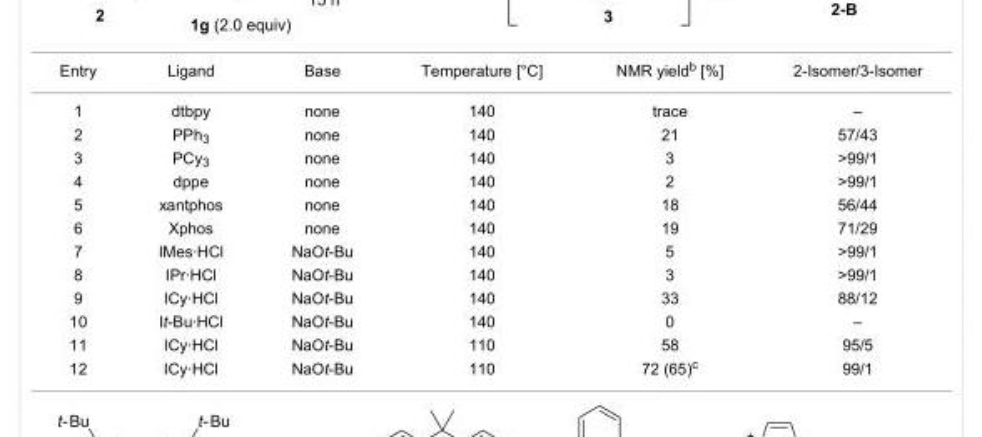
<table><tbody><tr><td>Entry</td><td>Ligand</td><td>Base</td><td>Temperature [°C]</td><td>NMR yield<sup>b</sup> [%]</td><td>2-Isomer/3-Isomer</td></tr><tr><td>1</td><td>dtbpy</td><td>none</td><td>140</td><td>trace</td><td>–</td></tr><tr><td>2</td><td>PPh<sub>3</sub></td><td>none</td><td>140</td><td>21</td><td>57/43</td></tr><tr><td>3</td><td>PCy<sub>3</sub></td><td>none</td><td>140</td><td>3</td><td>&gt;99/1</td></tr><tr><td>4</td><td>dppe</td><td>none</td><td>140</td><td>2</td><td>&gt;99/1</td></tr><tr><td>5</td><td>xantphos</td><td>none</td><td>140</td><td>18</td><td>56/44</td></tr><tr><td>6</td><td>Xphos</td><td>none</td><td>140</td><td>19</td><td>71/29</td></tr><tr><td>7</td><td>IMes·HCl</td><td>NaOt-Bu</td><td>140</td><td>5</td><td>&gt;99/1</td></tr><tr><td>8</td><td>IPr·HCl</td><td>NaOt-Bu</td><td>140</td><td>3</td><td>&gt;99/1</td></tr><tr><td>9</td><td>ICy·HCl</td><td>NaOt-Bu</td><td>140</td><td>33</td><td>88/12</td></tr><tr><td>10</td><td>It-Bu·HCl</td><td>NaOt-Bu</td><td>140</td><td>0</td><td>–</td></tr><tr><td>11</td><td>ICy·HCl</td><td>NaOt-Bu</td><td>110</td><td>58</td><td>95/5</td></tr><tr><td>12</td><td>ICy·HCl</td><td>NaOt-Bu</td><td>110</td><td>72 (65)<sup>c</sup></td><td>99/1</td></tr></tbody></table>